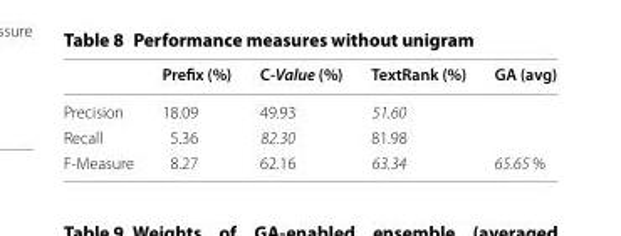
<table><thead><tr><td></td><td>Prefix (%)</td><td>C‑Value (%)</td><td>TextRank (%)</td><td>GA (avg)</td></tr></thead><tbody><tr><td>Precision</td><td>18.09</td><td>49.93</td><td>51.60</td><td></td></tr><tr><td>Recall</td><td>5.36</td><td>82.30</td><td>81.98</td><td></td></tr><tr><td>F-Measure</td><td>8.27</td><td>62.16</td><td>63.34</td><td>65.65 %</td></tr></tbody></table>